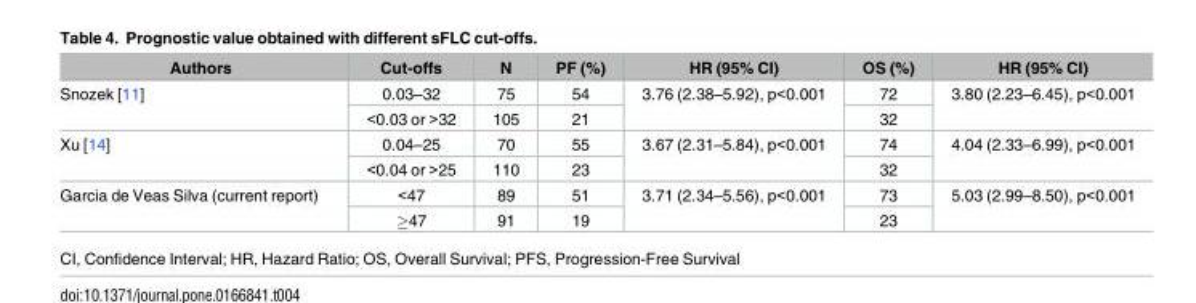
<table><thead><tr><td>Authors</td><td>Cut-offs</td><td>N</td><td>PF (%)</td><td>HR (95% CI)</td><td>OS (%)</td><td>HR (95% CI)</td></tr></thead><tbody><tr><td rowspan="2">Snozek [11]</td><td>0.03–32</td><td>75</td><td>54</td><td rowspan="2">3.76 (2.38–5.92), p&lt;0.001</td><td>72</td><td rowspan="2">3.80 (2.23–6.45), p&lt;0.001</td></tr><tr><td>&lt;0.03 or &gt;32</td><td>105</td><td>21</td><td>32</td></tr><tr><td rowspan="2">Xu [14]</td><td>0.04–25</td><td>70</td><td>55</td><td rowspan="2">3.67 (2.31–5.84), p&lt;0.001</td><td>74</td><td rowspan="2">4.04 (2.33–6.99), p&lt;0.001</td></tr><tr><td>&lt;0.04 or &gt;25</td><td>110</td><td>23</td><td>32</td></tr><tr><td rowspan="2">Garcia de Veas Silva (current report)</td><td>&lt;47</td><td>89</td><td>51</td><td rowspan="2">3.71 (2.34–5.56), p&lt;0.001</td><td>73</td><td rowspan="2">5.03 (2.99–8.50), p&lt;0.001</td></tr><tr><td>≥47</td><td>91</td><td>19</td><td>23</td></tr></tbody></table>